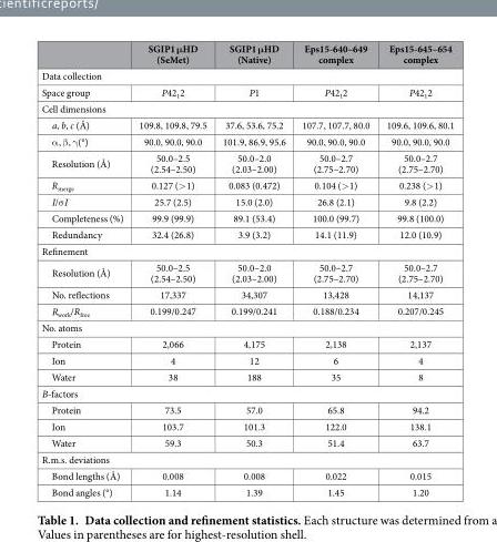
<table><thead><tr><td></td><td>SGIP1 μHD (SeMet)</td><td>SGIP1 μHD (Native)</td><td>Eps15-640–649 complex</td><td>Eps15-645–654 complex</td></tr></thead><tbody><tr><td colspan="5">Data collection</td></tr><tr><td>Space group</td><td>P42<sub>1</sub>2</td><td>P1</td><td>P42<sub>1</sub>2</td><td>P42<sub>1</sub>2</td></tr><tr><td colspan="5">Cell dimensions</td></tr><tr><td>a, b, c (Å)</td><td>109.8, 109.8, 79.5</td><td>37.6, 53.6, 75.2</td><td>107.7, 107.7, 80.0</td><td>109.6, 109.6, 80.1</td></tr><tr><td>α , β , γ (°)</td><td>90.0, 90.0, 90.0</td><td>101.9, 86.9, 95.6</td><td>90.0, 90.0, 90.0</td><td>90.0, 90.0, 90.0</td></tr><tr><td>Resolution (Å)</td><td>50.0–2.5 (2.54–2.50)</td><td>50.0–2.0 (2.03–2.00)</td><td>50.0–2.7 (2.75–2.70)</td><td>50.0–2.7 (2.75–2.70)</td></tr><tr><td>R<sub>merge</sub></td><td>0.127 (&gt; 1)</td><td>0.083 (0.472)</td><td>0.104 (&gt; 1)</td><td>0.238 (&gt; 1)</td></tr><tr><td>I/σ I</td><td>25.7 (2.5)</td><td>15.0 (2.0)</td><td>26.8 (2.1)</td><td>9.8 (2.2)</td></tr><tr><td>Completeness (%)</td><td>99.9 (99.9)</td><td>89.1 (53.4)</td><td>100.0 (99.7)</td><td>99.8 (100.0)</td></tr><tr><td>Redundancy</td><td>32.4 (26.8)</td><td>3.9 (3.2)</td><td>14.1 (11.9)</td><td>12.0 (10.9)</td></tr><tr><td colspan="5">Refinement</td></tr><tr><td>Resolution (Å)</td><td>50.0–2.5 (2.54–2.50)</td><td>50.0–2.0 (2.03–2.00)</td><td>50.0–2.7 (2.75–2.70)</td><td>50.0–2.7 (2.75–2.70)</td></tr><tr><td>No. reflections</td><td>17,337</td><td>34,307</td><td>13,428</td><td>14,137</td></tr><tr><td>R<sub>work</sub>/R<sub>free</sub></td><td>0.199/0.247</td><td>0.199/0.241</td><td>0.188/0.234</td><td>0.207/0.245</td></tr><tr><td colspan="5">No. atoms</td></tr><tr><td>Protein</td><td>2,066</td><td>4,175</td><td>2,138</td><td>2,137</td></tr><tr><td>Ion</td><td>4</td><td>12</td><td>6</td><td>4</td></tr><tr><td>Water</td><td>38</td><td>188</td><td>35</td><td>8</td></tr><tr><td colspan="5">B-factors</td></tr><tr><td>Protein</td><td>73.5</td><td>57.0</td><td>65.8</td><td>94.2</td></tr><tr><td>Ion</td><td>103.7</td><td>101.3</td><td>122.0</td><td>138.1</td></tr><tr><td>Water</td><td>59.3</td><td>50.3</td><td>51.4</td><td>63.7</td></tr><tr><td colspan="5">R.m.s. deviations</td></tr><tr><td>Bond lengths (Å)</td><td>0.008</td><td>0.008</td><td>0.022</td><td>0.015</td></tr><tr><td>Bond angles (°)</td><td>1.14</td><td>1.39</td><td>1.45</td><td>1.20</td></tr></tbody></table>